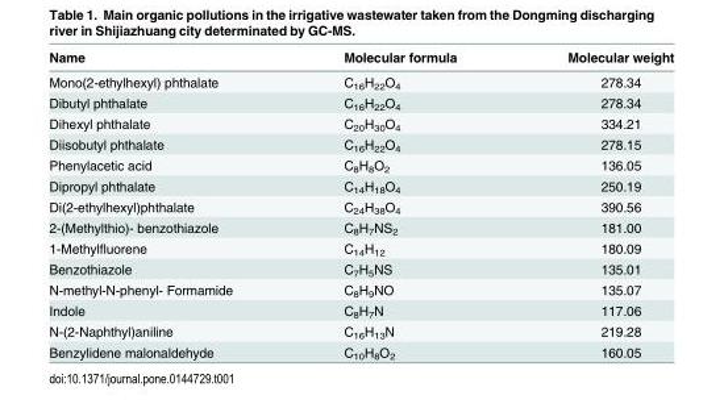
<table><thead><tr><td>Name</td><td>Molecular formula</td><td>Molecular weight</td></tr></thead><tbody><tr><td>Mono(2-ethylhexyl) phthalate</td><td>C<sub>16</sub>H<sub>22</sub>O<sub>4</sub></td><td>278.34</td></tr><tr><td>Dibutyl phthalate</td><td>C<sub>16</sub>H<sub>22</sub>O<sub>4</sub></td><td>278.34</td></tr><tr><td>Dihexyl phthalate</td><td>C<sub>20</sub>H<sub>30</sub>O<sub>4</sub></td><td>334.21</td></tr><tr><td>Diisobutyl phthalate</td><td>C<sub>16</sub>H<sub>22</sub>O<sub>4</sub></td><td>278.15</td></tr><tr><td>Phenylacetic acid</td><td>C<sub>8</sub>H<sub>8</sub>O<sub>2</sub></td><td>136.05</td></tr><tr><td>Dipropyl phthalate</td><td>C<sub>14</sub>H<sub>18</sub>O<sub>4</sub></td><td>250.19</td></tr><tr><td>Di(2-ethylhexyl)phthalate</td><td>C<sub>24</sub>H<sub>38</sub>O<sub>4</sub></td><td>390.56</td></tr><tr><td>2-(Methylthio)- benzothiazole</td><td>C<sub>8</sub>H<sub>7</sub>NS<sub>2</sub></td><td>181.00</td></tr><tr><td>1-Methylfluorene</td><td>C<sub>14</sub>H<sub>12</sub></td><td>180.09</td></tr><tr><td>Benzothiazole</td><td>C<sub>7</sub>H<sub>5</sub>NS</td><td>135.01</td></tr><tr><td>N-methyl-N-phenyl- Formamide</td><td>C<sub>8</sub>H<sub>9</sub>NO</td><td>135.07</td></tr><tr><td>Indole</td><td>C<sub>8</sub>H<sub>7</sub>N</td><td>117.06</td></tr><tr><td>N-(2-Naphthyl)aniline</td><td>C<sub>16</sub>H<sub>13</sub>N</td><td>219.28</td></tr><tr><td>Benzylidene malonaldehyde</td><td>C<sub>10</sub>H<sub>8</sub>O<sub>2</sub></td><td>160.05</td></tr></tbody></table>